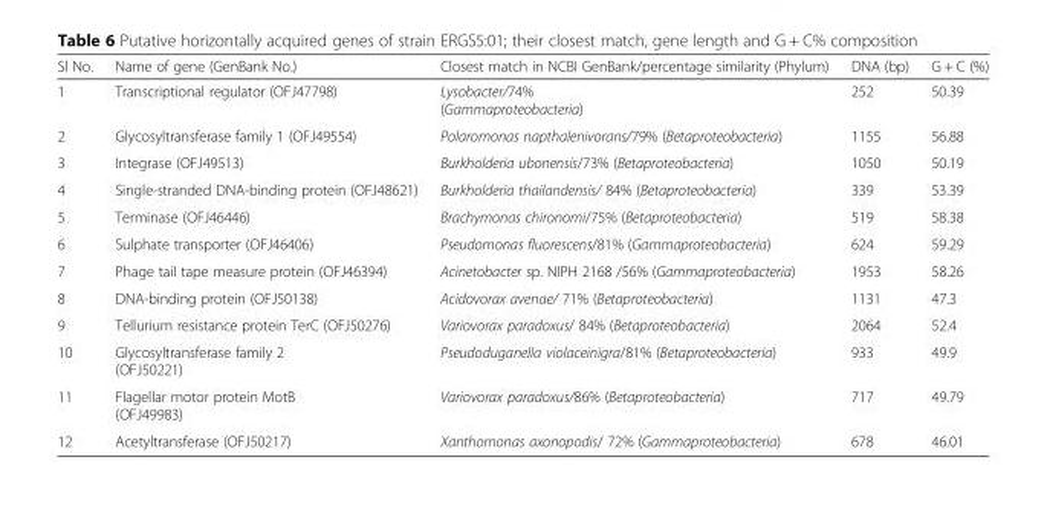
<table><thead><tr><td>Sl No.</td><td>Name of gene (GenBank No.)</td><td>Closest match in NCBI GenBank/percentage similarity (Phylum)</td><td>DNA (bp)</td><td>G + C (%)</td></tr></thead><tbody><tr><td>1</td><td>Transcriptional regulator (OFJ47798)</td><td>Lysobacter/74% (Gammaproteobacteria)</td><td>252</td><td>50.39</td></tr><tr><td>2</td><td>Glycosyltransferase family 1 (OFJ49554)</td><td>Polaromonas napthalenivorans/79% (Betaproteobacteria)</td><td>1155</td><td>56.88</td></tr><tr><td>3</td><td>Integrase (OFJ49513)</td><td>Burkholderia ubonensis/73% (Betaproteobacteria)</td><td>1050</td><td>50.19</td></tr><tr><td>4</td><td>Single-stranded DNA-binding protein (OFJ48621)</td><td>Burkholderia thailandensis/ 84% (Betaproteobacteria)</td><td>339</td><td>53.39</td></tr><tr><td>5</td><td>Terminase (OFJ46446)</td><td>Brachymonas chironomi/75% (Betaproteobacteria)</td><td>519</td><td>58.38</td></tr><tr><td>6</td><td>Sulphate transporter (OFJ46406)</td><td>Pseudomonas fluorescens/81% (Gammaproteobacteria)</td><td>624</td><td>59.29</td></tr><tr><td>7</td><td>Phage tail tape measure protein (OFJ46394)</td><td>Acinetobacter sp. NIPH 2168 /56% (Gammaproteobacteria)</td><td>1953</td><td>58.26</td></tr><tr><td>8</td><td>DNA-binding protein (OFJ50138)</td><td>Acidovorax avenae/ 71% (Betaproteobacteria)</td><td>1131</td><td>47.3</td></tr><tr><td>9</td><td>Tellurium resistance protein TerC (OFJ50276)</td><td>Variovorax paradoxus/ 84% (Betaproteobacteria)</td><td>2064</td><td>52.4</td></tr><tr><td>10</td><td>Glycosyltransferase family 2 (OFJ50221)</td><td>Pseudoduganella violaceinigra/81% (Betaproteobacteria)</td><td>933</td><td>49.9</td></tr><tr><td>11</td><td>Flagellar motor protein MotB (OFJ49983)</td><td>Variovorax paradoxus/86% (Betaproteobacteria)</td><td>717</td><td>49.79</td></tr><tr><td>12</td><td>Acetyltransferase (OFJ50217)</td><td>Xanthomonas axonopodis/ 72% (Gammaproteobacteria)</td><td>678</td><td>46.01</td></tr></tbody></table>